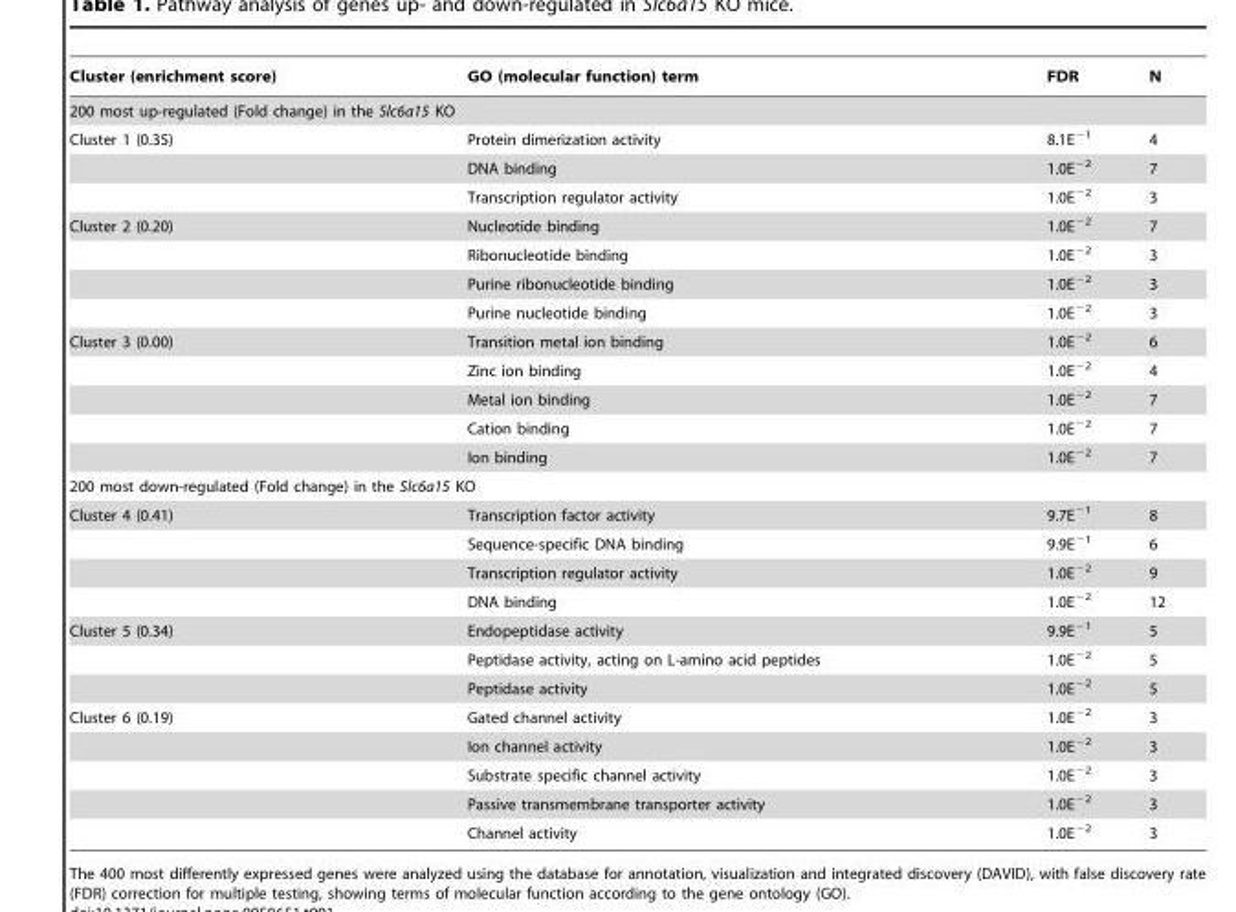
<table><thead><tr><td>Cluster (enrichment score)</td><td>GO (molecular function) term</td><td>FDR</td><td>N</td></tr></thead><tbody><tr><td colspan="4">200 most up-regulated (Fold change) in the Slc6a15 KO</td></tr><tr><td rowspan="3">Cluster 1 (0.35)</td><td>Protein dimerization activity</td><td>8.1E<sup>−1</sup></td><td>4</td></tr><tr><td>DNA binding</td><td>1.0E<sup>−2</sup></td><td>7</td></tr><tr><td>Transcription regulator activity</td><td>1.0E<sup>−2</sup></td><td>3</td></tr><tr><td rowspan="4">Cluster 2 (0.20)</td><td>Nucleotide binding</td><td>1.0E<sup>−2</sup></td><td>7</td></tr><tr><td>Ribonucleotide binding</td><td>1.0E<sup>−2</sup></td><td>3</td></tr><tr><td>Purine ribonucleotide binding</td><td>1.0E<sup>−2</sup></td><td>3</td></tr><tr><td>Purine nucleotide binding</td><td>1.0E<sup>−2</sup></td><td>3</td></tr><tr><td rowspan="5">Cluster 3 (0.00)</td><td>Transition metal ion binding</td><td>1.0E<sup>−2</sup></td><td>6</td></tr><tr><td>Zinc ion binding</td><td>1.0E<sup>−2</sup></td><td>4</td></tr><tr><td>Metal ion binding</td><td>1.0E<sup>−2</sup></td><td>7</td></tr><tr><td>Cation binding</td><td>1.0E<sup>−2</sup></td><td>7</td></tr><tr><td>Ion binding</td><td>1.0E<sup>−2</sup></td><td>7</td></tr><tr><td colspan="4">200 most down-regulated (Fold change) in the Slc6a15 KO</td></tr><tr><td rowspan="4">Cluster 4 (0.41)</td><td>Transcription factor activity</td><td>9.7E<sup>−1</sup></td><td>8</td></tr><tr><td>Sequence-specific DNA binding</td><td>9.9E<sup>−1</sup></td><td>6</td></tr><tr><td>Transcription regulator activity</td><td>1.0E<sup>−2</sup></td><td>9</td></tr><tr><td>DNA binding</td><td>1.0E<sup>−2</sup></td><td>12</td></tr><tr><td rowspan="3">Cluster 5 (0.34)</td><td>Endopeptidase activity</td><td>9.9E<sup>−1</sup></td><td>5</td></tr><tr><td>Peptidase activity, acting on L-amino acid peptides</td><td>1.0E<sup>−2</sup></td><td>5</td></tr><tr><td>Peptidase activity</td><td>1.0E<sup>−2</sup></td><td>5</td></tr><tr><td rowspan="5">Cluster 6 (0.19)</td><td>Gated channel activity</td><td>1.0E<sup>−2</sup></td><td>3</td></tr><tr><td>Ion channel activity</td><td>1.0E<sup>−2</sup></td><td>3</td></tr><tr><td>Substrate specific channel activity</td><td>1.0E<sup>−2</sup></td><td>3</td></tr><tr><td>Passive transmembrane transporter activity</td><td>1.0E<sup>−2</sup></td><td>3</td></tr><tr><td>Channel activity</td><td>1.0E<sup>−2</sup></td><td>3</td></tr></tbody></table>